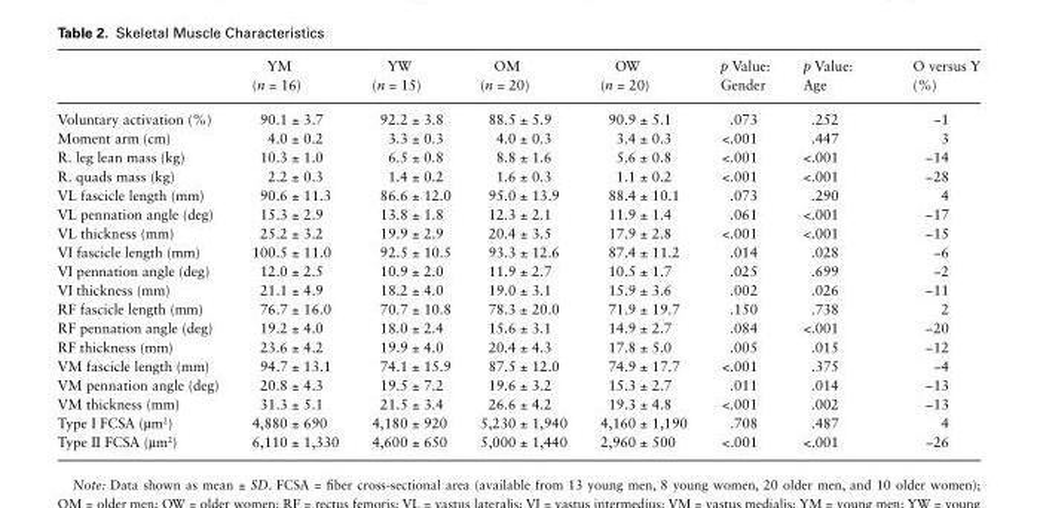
<table><thead><tr><td></td><td>YM (n = 16)</td><td>YW (n = 15)</td><td>OM (n = 20)</td><td>OW (n = 20)</td><td>p Value: Gender</td><td>p Value: Age</td><td>O versus Y (%)</td></tr></thead><tbody><tr><td>Voluntary activation (%)</td><td>90.1 ± 3.7</td><td>92.2 ± 3.8</td><td>88.5 ± 5.9</td><td>90.9 ± 5.1</td><td>.073</td><td>.252</td><td>−1</td></tr><tr><td>Moment arm (cm)</td><td>4.0 ± 0.2</td><td>3.3 ± 0.3</td><td>4.0 ± 0.3</td><td>3.4 ± 0.3</td><td>&lt;.001</td><td>.447</td><td>3</td></tr><tr><td>R. leg lean mass (kg)</td><td>10.3 ± 1.0</td><td>6.5 ± 0.8</td><td>8.8 ± 1.6</td><td>5.6 ± 0.8</td><td>&lt;.001</td><td>&lt;.001</td><td>−14</td></tr><tr><td>R. quads mass (kg)</td><td>2.2 ± 0.3</td><td>1.4 ± 0.2</td><td>1.6 ± 0.3</td><td>1.1 ± 0.2</td><td>&lt;.001</td><td>&lt;.001</td><td>−28</td></tr><tr><td>VL fascicle length (mm)</td><td>90.6 ± 11.3</td><td>86.6 ± 12.0</td><td>95.0 ± 13.9</td><td>88.4 ± 10.1</td><td>.073</td><td>.290</td><td>4</td></tr><tr><td>VL pennation angle (deg)</td><td>15.3 ± 2.9</td><td>13.8 ± 1.8</td><td>12.3 ± 2.1</td><td>11.9 ± 1.4</td><td>.061</td><td>&lt;.001</td><td>−17</td></tr><tr><td>VL thickness (mm)</td><td>25.2 ± 3.2</td><td>19.9 ± 2.9</td><td>20.4 ± 3.5</td><td>17.9 ± 2.8</td><td>&lt;.001</td><td>&lt;.001</td><td>−15</td></tr><tr><td>VI fascicle length (mm)</td><td>100.5 ± 11.0</td><td>92.5 ± 10.5</td><td>93.3 ± 12.6</td><td>87.4 ± 11.2</td><td>.014</td><td>.028</td><td>−6</td></tr><tr><td>VI pennation angle (deg)</td><td>12.0 ± 2.5</td><td>10.9 ± 2.0</td><td>11.9 ± 2.7</td><td>10.5 ± 1.7</td><td>.025</td><td>.699</td><td>−2</td></tr><tr><td>VI thickness (mm)</td><td>21.1 ± 4.9</td><td>18.2 ± 4.0</td><td>19.0 ± 3.1</td><td>15.9 ± 3.6</td><td>.002</td><td>.026</td><td>−11</td></tr><tr><td>RF fascicle length (mm)</td><td>76.7 ± 16.0</td><td>70.7 ± 10.8</td><td>78.3 ± 20.0</td><td>71.9 ± 19.7</td><td>.150</td><td>.738</td><td>2</td></tr><tr><td>RF pennation angle (deg)</td><td>19.2 ± 4.0</td><td>18.0 ± 2.4</td><td>15.6 ± 3.1</td><td>14.9 ± 2.7</td><td>.084</td><td>&lt;.001</td><td>−20</td></tr><tr><td>RF thickness (mm)</td><td>23.6 ± 4.2</td><td>19.9 ± 4.0</td><td>20.4 ± 4.3</td><td>17.8 ± 5.0</td><td>.005</td><td>.015</td><td>−12</td></tr><tr><td>VM fascicle length (mm)</td><td>94.7 ± 13.1</td><td>74.1 ± 15.9</td><td>87.5 ± 12.0</td><td>74.9 ± 17.7</td><td>&lt;.001</td><td>.375</td><td>−4</td></tr><tr><td>VM pennation angle (deg)</td><td>20.8 ± 4.3</td><td>19.5 ± 7.2</td><td>19.6 ± 3.2</td><td>15.3 ± 2.7</td><td>.011</td><td>.014</td><td>−13</td></tr><tr><td>VM thickness (mm)</td><td>31.3 ± 5.1</td><td>21.5 ± 3.4</td><td>26.6 ± 4.2</td><td>19.3 ± 4.8</td><td>&lt;.001</td><td>.002</td><td>−13</td></tr><tr><td>Type I FCSA (µm<sup>2</sup>)</td><td>4,880 ± 690</td><td>4,180 ± 920</td><td>5,230 ± 1,940</td><td>4,160 ± 1,190</td><td>.708</td><td>.487</td><td>4</td></tr><tr><td>Type II FCSA (µm<sup>2</sup>)</td><td>6,110 ± 1,330</td><td>4,600 ± 650</td><td>5,000 ± 1,440</td><td>2,960 ± 500</td><td>&lt;.001</td><td>&lt;.001</td><td>−26</td></tr></tbody></table>